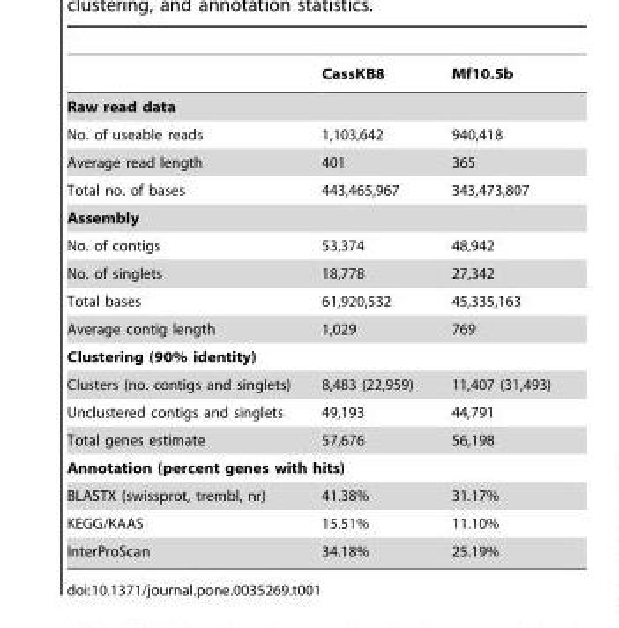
<table><thead><tr><td></td><td>CassKB8</td><td>Mf10.5b</td></tr></thead><tbody><tr><td colspan="3">Raw read data</td></tr><tr><td>No. of useable reads</td><td>1,103,642</td><td>940,418</td></tr><tr><td>Average read length</td><td>401</td><td>365</td></tr><tr><td>Total no. of bases</td><td>443,465,967</td><td>343,473,807</td></tr><tr><td colspan="3">Assembly</td></tr><tr><td>No. of contigs</td><td>53,374</td><td>48,942</td></tr><tr><td>No. of singlets</td><td>18,778</td><td>27,342</td></tr><tr><td>Total bases</td><td>61,920,532</td><td>45,335,163</td></tr><tr><td>Average contig length</td><td>1,029</td><td>769</td></tr><tr><td colspan="3">Clustering (90% identity)</td></tr><tr><td>Clusters (no. contigs and singlets)</td><td>8,483 (22,959)</td><td>11,407 (31,493)</td></tr><tr><td>Unclustered contigs and singlets</td><td>49,193</td><td>44,791</td></tr><tr><td>Total genes estimate</td><td>57,676</td><td>56,198</td></tr><tr><td colspan="3">Annotation (percent genes with hits)</td></tr><tr><td>BLASTX (swissprot, trembl, nr)</td><td>41.38%</td><td>31.17%</td></tr><tr><td>KEGG/KAAS</td><td>15.51%</td><td>11.10%</td></tr><tr><td>InterProScan</td><td>34.18%</td><td>25.19%</td></tr></tbody></table>